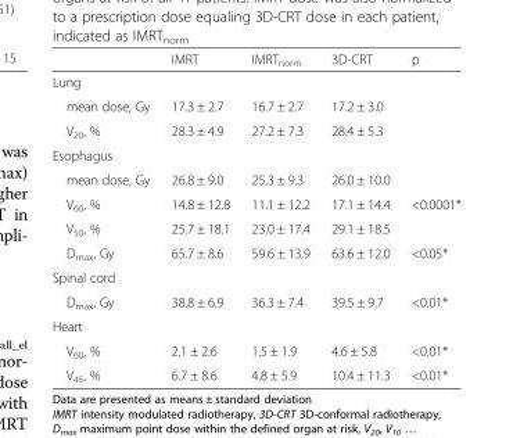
<table><thead><tr><td></td><td>IMRT</td><td>IMRT<sub>norm</sub></td><td>3D-CRT</td><td>p</td></tr></thead><tbody><tr><td colspan="5">Lung</td></tr><tr><td>mean dose, Gy</td><td>17.3 ± 2.7</td><td>16.7 ± 2.7</td><td>17.2 ± 3.0</td><td></td></tr><tr><td>V<sub>20</sub>, %</td><td>28.3 ± 4.9</td><td>27.2 ± 7.3</td><td>28.4 ± 5.3</td><td></td></tr><tr><td colspan="5">Esophagus</td></tr><tr><td>mean dose, Gy</td><td>26.8 ± 9.0</td><td>25.3 ± 9.3</td><td>26.0 ± 10.0</td><td></td></tr><tr><td>V<sub>60</sub>, %</td><td>14.8 ± 12.8</td><td>11.1 ± 12.2</td><td>17.1 ± 14.4</td><td>&lt;0.0001*</td></tr><tr><td>V<sub>50</sub>, %</td><td>25.7 ± 18.1</td><td>23.0 ± 17.4</td><td>29.1 ± 18.5</td><td></td></tr><tr><td>D<sub>max</sub>, Gy</td><td>65.7 ± 8.6</td><td>59.6 ± 13.9</td><td>63.6 ± 12.0</td><td>&lt;0.05*</td></tr><tr><td colspan="5">Spinal cord</td></tr><tr><td>D<sub>max</sub>, Gy</td><td>38.8 ± 6.9</td><td>36.3 ± 7.4</td><td>39.5 ± 9.7</td><td>&lt;0.01*</td></tr><tr><td colspan="5">Heart</td></tr><tr><td>V<sub>60</sub>, %</td><td>2.1 ± 2.6</td><td>1.5 ± 1.9</td><td>4.6 ± 5.8</td><td>&lt;0.01*</td></tr><tr><td>V<sub>45</sub>, %</td><td>6.7 ± 8.6</td><td>4.8 ± 5.9</td><td>10.4 ± 11.3</td><td>&lt;0.01*</td></tr></tbody></table>